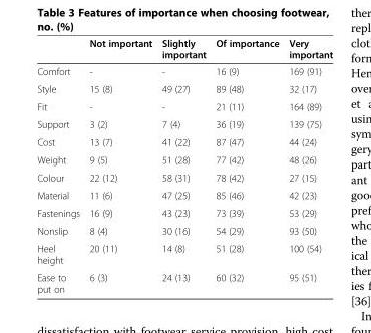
<table><thead><tr><td></td><td>Not important</td><td>Slightly important</td><td>Of importance</td><td>Very important</td></tr></thead><tbody><tr><td>Comfort</td><td>-</td><td>-</td><td>16 (9)</td><td>169 (91)</td></tr><tr><td>Style</td><td>15 (8)</td><td>49 (27)</td><td>89 (48)</td><td>32 (17)</td></tr><tr><td>Fit</td><td>-</td><td>-</td><td>21 (11)</td><td>164 (89)</td></tr><tr><td>Support</td><td>3 (2)</td><td>7 (4)</td><td>36 (19)</td><td>139 (75)</td></tr><tr><td>Cost</td><td>13 (7)</td><td>41 (22)</td><td>87 (47)</td><td>44 (24)</td></tr><tr><td>Weight</td><td>9 (5)</td><td>51 (28)</td><td>77 (42)</td><td>48 (26)</td></tr><tr><td>Colour</td><td>22 (12)</td><td>58 (31)</td><td>78 (42)</td><td>27 (15)</td></tr><tr><td>Material</td><td>11 (6)</td><td>47 (25)</td><td>85 (46)</td><td>42 (23)</td></tr><tr><td>Fastenings</td><td>16 (9)</td><td>43 (23)</td><td>73 (39)</td><td>53 (29)</td></tr><tr><td>Nonslip</td><td>8 (4)</td><td>30 (16)</td><td>54 (29)</td><td>93 (50)</td></tr><tr><td>Heel height</td><td>20 (11)</td><td>14 (8)</td><td>51 (28)</td><td>100 (54)</td></tr><tr><td>Ease to put on</td><td>6 (3)</td><td>24 (13)</td><td>60 (32)</td><td>95 (51)</td></tr></tbody></table>